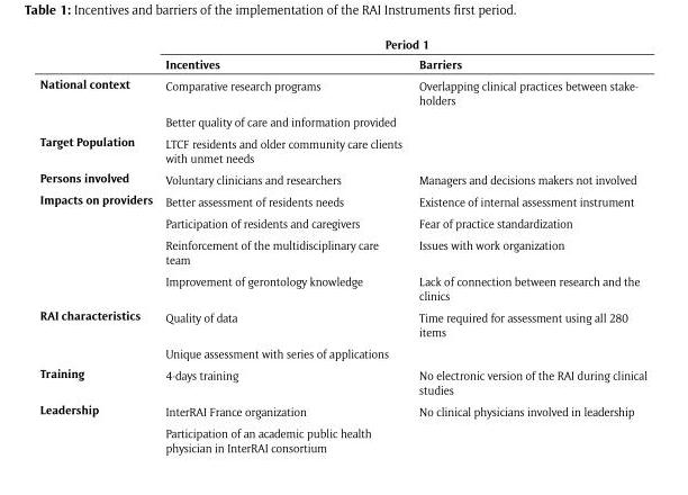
<table><thead><tr><td rowspan="2"></td><td colspan="2">Period 1</td></tr><tr><td>Incentives</td><td>Barriers</td></tr></thead><tbody><tr><td rowspan="2">National context</td><td>Comparative research programs</td><td>Overlapping clinical practices between stake- holders</td></tr><tr><td>Better quality of care and information provided</td><td></td></tr><tr><td>Target Population</td><td>LTCF residents and older community care clients with unmet needs</td><td></td></tr><tr><td>Persons involved</td><td>Voluntary clinicians and researchers</td><td>Managers and decisions makers not involved</td></tr><tr><td rowspan="4">Impacts on providers</td><td>Better assessment of residents needs</td><td>Existence of internal assessment instrument</td></tr><tr><td>Participation of residents and caregivers</td><td>Fear of practice standardization</td></tr><tr><td>Reinforcement of the multidisciplinary care team</td><td>Issues with work organization</td></tr><tr><td>Improvement of gerontology knowledge</td><td>Lack of connection between research and the clinics</td></tr><tr><td rowspan="2">RAI characteristics</td><td>Quality of data</td><td>Time required for assessment using all 280 items</td></tr><tr><td>Unique assessment with series of applications</td><td></td></tr><tr><td>Training</td><td>4-days training</td><td>No electronic version of the RAI during clinical studies</td></tr><tr><td rowspan="2">Leadership</td><td>InterRAI France organization</td><td>No clinical physicians involved in leadership</td></tr><tr><td>Participation of an academic public health physician in InterRAI consortium</td><td></td></tr></tbody></table>